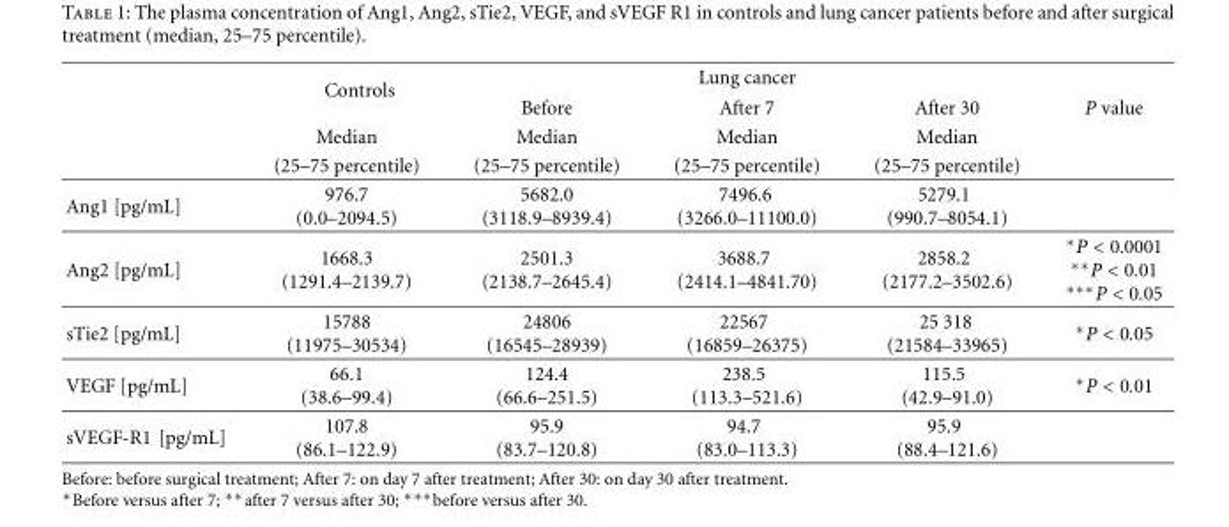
<table><thead><tr><td rowspan="4"></td><td rowspan="4">Controls Median (25–75 percentile)</td><td colspan="3">Lung cancer</td><td rowspan="4">P value</td></tr><tr><td rowspan="3">Before Median (25–75 percentile)</td><td rowspan="3">After 7 Median (25–75 percentile)</td><td rowspan="3">After 30 Median (25–75 percentile)</td></tr><tr></tr><tr></tr></thead><tbody><tr><td>Ang1 [pg/mL]</td><td>976.7 (0.0–2094.5)</td><td>5682.0 (3118.9–8939.4)</td><td>7496.6 (3266.0–11100.0)</td><td>5279.1 (990.7–8054.1)</td><td></td></tr><tr><td>Ang2 [pg/mL]</td><td>1668.3 (1291.4–2139.7)</td><td>2501.3 (2138.7–2645.4)</td><td>3688.7 (2414.1–4841.70)</td><td>2858.2 (2177.2–3502.6)</td><td>∗P &lt; 0.0001 ∗∗P &lt; 0.01 ∗∗∗P &lt; 0.05</td></tr><tr><td>sTie2 [pg/mL]</td><td>15788 (11975–30534)</td><td>24806 (16545–28939)</td><td>22567 (16859–26375)</td><td>25 318 (21584–33965)</td><td>∗P &lt; 0.05</td></tr><tr><td>VEGF [pg/mL]</td><td>66.1 (38.6–99.4)</td><td>124.4 (66.6–251.5)</td><td>238.5 (113.3–521.6)</td><td>115.5 (42.9–91.0)</td><td>∗P &lt; 0.01</td></tr><tr><td>sVEGF-R1 [pg/mL]</td><td>107.8 (86.1–122.9)</td><td>95.9 (83.7–120.8)</td><td>94.7 (83.0–113.3)</td><td>95.9 (88.4–121.6)</td><td></td></tr></tbody></table>